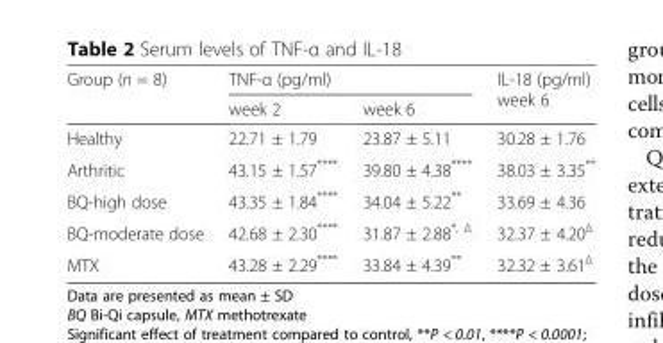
<table><thead><tr><td rowspan="2">Group (n = 8)</td><td colspan="2">TNF-α (pg/ml)</td><td rowspan="2">IL-18 (pg/ml) week 6</td></tr><tr><td>week 2</td><td>week 6</td></tr></thead><tbody><tr><td>Healthy</td><td>22.71 ± 1.79</td><td>23.87 ± 5.11</td><td>30.28 ± 1.76</td></tr><tr><td>Arthritic</td><td>43.15 ± 1.57****</td><td>39.80 ± 4.38****</td><td>38.03 ± 3.35**</td></tr><tr><td>BQ-high dose</td><td>43.35 ± 1.84****</td><td>34.04 ± 5.22**</td><td>33.69 ± 4.36</td></tr><tr><td>BQ-moderate dose</td><td>42.68 ± 2.30****</td><td>31.87 ± 2.88*, Δ</td><td>32.37 ± 4.20Δ</td></tr><tr><td>MTX</td><td>43.28 ± 2.29****</td><td>33.84 ± 4.39**</td><td>32.32 ± 3.61Δ</td></tr></tbody></table>